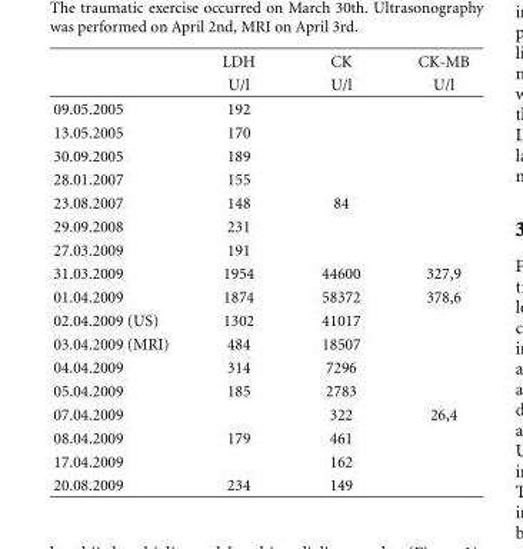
<table><thead><tr><td rowspan="2"></td><td rowspan="2">LDH U/l</td><td rowspan="2">CK U/l</td><td rowspan="2">CK-MB U/l</td></tr><tr></tr></thead><tbody><tr><td>09.05.2005</td><td>192</td><td></td><td></td></tr><tr><td>13.05.2005</td><td>170</td><td></td><td></td></tr><tr><td>30.09.2005</td><td>189</td><td></td><td></td></tr><tr><td>28.01.2007</td><td>155</td><td></td><td></td></tr><tr><td>23.08.2007</td><td>148</td><td>84</td><td></td></tr><tr><td>29.09.2008</td><td>231</td><td></td><td></td></tr><tr><td>27.03.2009</td><td>191</td><td></td><td></td></tr><tr><td>31.03.2009</td><td>1954</td><td>44600</td><td>327,9</td></tr><tr><td>01.04.2009</td><td>1874</td><td>58372</td><td>378,6</td></tr><tr><td>02.04.2009 (US)</td><td>1302</td><td>41017</td><td></td></tr><tr><td>03.04.2009 (MRI)</td><td>484</td><td>18507</td><td></td></tr><tr><td>04.04.2009</td><td>314</td><td>7296</td><td></td></tr><tr><td>05.04.2009</td><td>185</td><td>2783</td><td></td></tr><tr><td>07.04.2009</td><td></td><td>322</td><td>26,4</td></tr><tr><td>08.04.2009</td><td>179</td><td>461</td><td></td></tr><tr><td>17.04.2009</td><td></td><td>162</td><td></td></tr><tr><td>20.08.2009</td><td>234</td><td>149</td><td></td></tr></tbody></table>